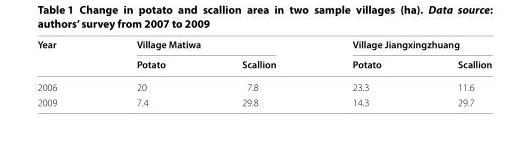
<table><thead><tr><td rowspan="2">Year</td><td colspan="2">Village Matiwa</td><td colspan="2">Village Jiangxingzhuang</td></tr><tr><td>Potato</td><td>Scallion</td><td>Potato</td><td>Scallion</td></tr></thead><tbody><tr><td>2006</td><td>20</td><td>7.8</td><td>23.3</td><td>11.6</td></tr><tr><td>2009</td><td>7.4</td><td>29.8</td><td>14.3</td><td>29.7</td></tr></tbody></table>